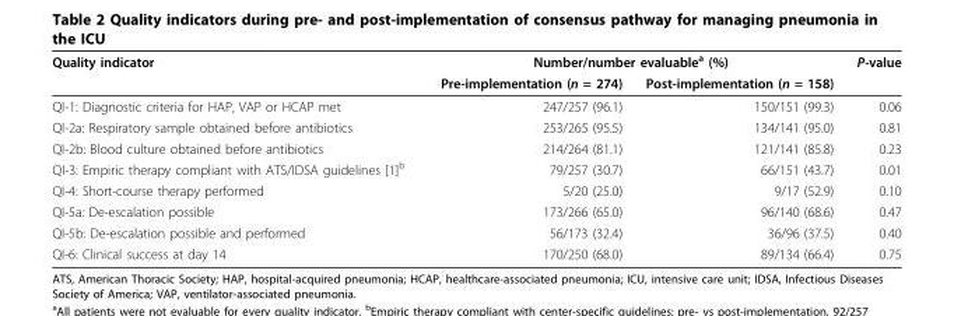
<table><thead><tr><td rowspan="2">Quality indicator</td><td colspan="2">Number/number evaluable<sup>a</sup> (%)</td><td rowspan="2">P-value</td></tr><tr><td>Pre-implementation (n = 274)</td><td>Post-implementation (n = 158)</td></tr></thead><tbody><tr><td>QI-1: Diagnostic criteria for HAP, VAP or HCAP met</td><td>247/257 (96.1)</td><td>150/151 (99.3)</td><td>0.06</td></tr><tr><td>QI-2a: Respiratory sample obtained before antibiotics</td><td>253/265 (95.5)</td><td>134/141 (95.0)</td><td>0.81</td></tr><tr><td>QI-2b: Blood culture obtained before antibiotics</td><td>214/264 (81.1)</td><td>121/141 (85.8)</td><td>0.23</td></tr><tr><td>QI-3: Empiric therapy compliant with ATS/IDSA guidelines [1]<sup>b</sup></td><td>79/257 (30.7)</td><td>66/151 (43.7)</td><td>0.01</td></tr><tr><td>QI-4: Short-course therapy performed</td><td>5/20 (25.0)</td><td>9/17 (52.9)</td><td>0.10</td></tr><tr><td>QI-5a: De-escalation possible</td><td>173/266 (65.0)</td><td>96/140 (68.6)</td><td>0.47</td></tr><tr><td>QI-5b: De-escalation possible and performed</td><td>56/173 (32.4)</td><td>36/96 (37.5)</td><td>0.40</td></tr><tr><td>QI-6: Clinical success at day 14</td><td>170/250 (68.0)</td><td>89/134 (66.4)</td><td>0.75</td></tr></tbody></table>